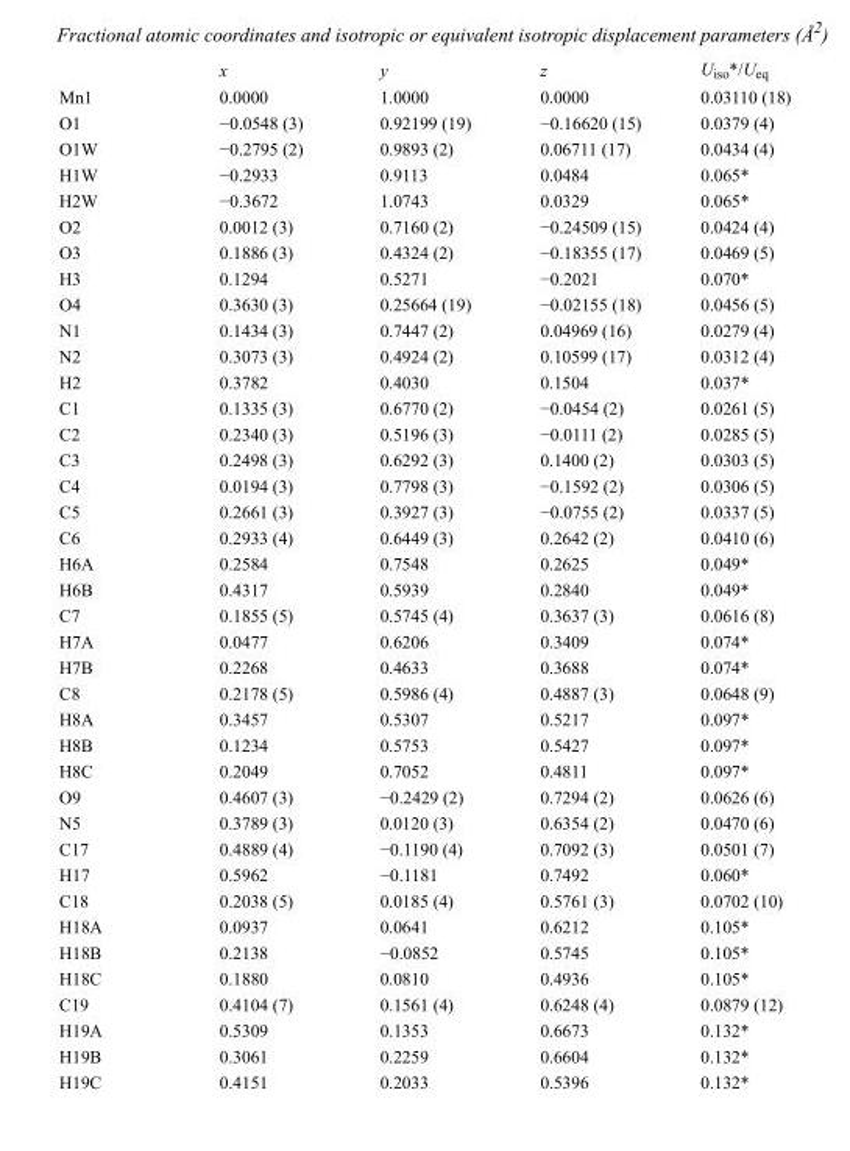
<table><thead><tr><td></td><td>x</td><td>y</td><td>z</td><td>U<sub>iso</sub>*/U<sub>eq</sub></td></tr></thead><tbody><tr><td>Mn1</td><td>0.0000</td><td>1.0000</td><td>0.0000</td><td>0.03110 (18)</td></tr><tr><td>O1</td><td>−0.0548 (3)</td><td>0.92199 (19)</td><td>−0.16620 (15)</td><td>0.0379 (4)</td></tr><tr><td>O1W</td><td>−0.2795 (2)</td><td>0.9893 (2)</td><td>0.06711 (17)</td><td>0.0434 (4)</td></tr><tr><td>H1W</td><td>−0.2933</td><td>0.9113</td><td>0.0484</td><td>0.065*</td></tr><tr><td>H2W</td><td>−0.3672</td><td>1.0743</td><td>0.0329</td><td>0.065*</td></tr><tr><td>O2</td><td>0.0012 (3)</td><td>0.7160 (2)</td><td>−0.24509 (15)</td><td>0.0424 (4)</td></tr><tr><td>O3</td><td>0.1886 (3)</td><td>0.4324 (2)</td><td>−0.18355 (17)</td><td>0.0469 (5)</td></tr><tr><td>H3</td><td>0.1294</td><td>0.5271</td><td>−0.2021</td><td>0.070*</td></tr><tr><td>O4</td><td>0.3630 (3)</td><td>0.25664 (19)</td><td>−0.02155 (18)</td><td>0.0456 (5)</td></tr><tr><td>N1</td><td>0.1434 (3)</td><td>0.7447 (2)</td><td>0.04969 (16)</td><td>0.0279 (4)</td></tr><tr><td>N2</td><td>0.3073 (3)</td><td>0.4924 (2)</td><td>0.10599 (17)</td><td>0.0312 (4)</td></tr><tr><td>H2</td><td>0.3782</td><td>0.4030</td><td>0.1504</td><td>0.037*</td></tr><tr><td>C1</td><td>0.1335 (3)</td><td>0.6770 (2)</td><td>−0.0454 (2)</td><td>0.0261 (5)</td></tr><tr><td>C2</td><td>0.2340 (3)</td><td>0.5196 (3)</td><td>−0.0111 (2)</td><td>0.0285 (5)</td></tr><tr><td>C3</td><td>0.2498 (3)</td><td>0.6292 (3)</td><td>0.1400 (2)</td><td>0.0303 (5)</td></tr><tr><td>C4</td><td>0.0194 (3)</td><td>0.7798 (3)</td><td>−0.1592 (2)</td><td>0.0306 (5)</td></tr><tr><td>C5</td><td>0.2661 (3)</td><td>0.3927 (3)</td><td>−0.0755 (2)</td><td>0.0337 (5)</td></tr><tr><td>C6</td><td>0.2933 (4)</td><td>0.6449 (3)</td><td>0.2642 (2)</td><td>0.0410 (6)</td></tr><tr><td>H6A</td><td>0.2584</td><td>0.7548</td><td>0.2625</td><td>0.049*</td></tr><tr><td>H6B</td><td>0.4317</td><td>0.5939</td><td>0.2840</td><td>0.049*</td></tr><tr><td>C7</td><td>0.1855 (5)</td><td>0.5745 (4)</td><td>0.3637 (3)</td><td>0.0616 (8)</td></tr><tr><td>H7A</td><td>0.0477</td><td>0.6206</td><td>0.3409</td><td>0.074*</td></tr><tr><td>H7B</td><td>0.2268</td><td>0.4633</td><td>0.3688</td><td>0.074*</td></tr><tr><td>C8</td><td>0.2178 (5)</td><td>0.5986 (4)</td><td>0.4887 (3)</td><td>0.0648 (9)</td></tr><tr><td>H8A</td><td>0.3457</td><td>0.5307</td><td>0.5217</td><td>0.097*</td></tr><tr><td>H8B</td><td>0.1234</td><td>0.5753</td><td>0.5427</td><td>0.097*</td></tr><tr><td>H8C</td><td>0.2049</td><td>0.7052</td><td>0.4811</td><td>0.097*</td></tr><tr><td>O9</td><td>0.4607 (3)</td><td>−0.2429 (2)</td><td>0.7294 (2)</td><td>0.0626 (6)</td></tr><tr><td>N5</td><td>0.3789 (3)</td><td>0.0120 (3)</td><td>0.6354 (2)</td><td>0.0470 (6)</td></tr><tr><td>C17</td><td>0.4889 (4)</td><td>−0.1190 (4)</td><td>0.7092 (3)</td><td>0.0501 (7)</td></tr><tr><td>H17</td><td>0.5962</td><td>−0.1181</td><td>0.7492</td><td>0.060*</td></tr><tr><td>C18</td><td>0.2038 (5)</td><td>0.0185 (4)</td><td>0.5761 (3)</td><td>0.0702 (10)</td></tr><tr><td>H18A</td><td>0.0937</td><td>0.0641</td><td>0.6212</td><td>0.105*</td></tr><tr><td>H18B</td><td>0.2138</td><td>−0.0852</td><td>0.5745</td><td>0.105*</td></tr><tr><td>H18C</td><td>0.1880</td><td>0.0810</td><td>0.4936</td><td>0.105*</td></tr><tr><td>C19</td><td>0.4104 (7)</td><td>0.1561 (4)</td><td>0.6248 (4)</td><td>0.0879 (12)</td></tr><tr><td>H19A</td><td>0.5309</td><td>0.1353</td><td>0.6673</td><td>0.132*</td></tr><tr><td>H19B</td><td>0.3061</td><td>0.2259</td><td>0.6604</td><td>0.132*</td></tr><tr><td>H19C</td><td>0.4151</td><td>0.2033</td><td>0.5396</td><td>0.132*</td></tr></tbody></table>